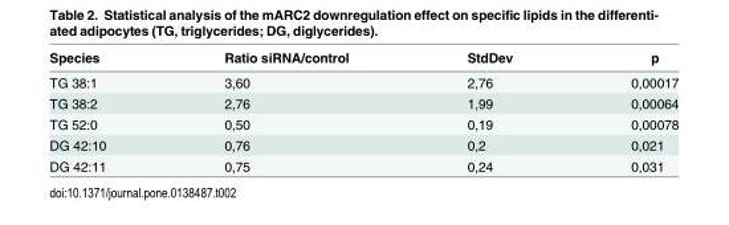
<table><thead><tr><td>Species</td><td>Ratio siRNA/control</td><td>StdDev</td><td>p</td></tr></thead><tbody><tr><td>TG 38:1</td><td>3,60</td><td>2,76</td><td>0,00017</td></tr><tr><td>TG 38:2</td><td>2,76</td><td>1,99</td><td>0,00064</td></tr><tr><td>TG 52:0</td><td>0,50</td><td>0,19</td><td>0,00078</td></tr><tr><td>DG 42:10</td><td>0,76</td><td>0,2</td><td>0,021</td></tr><tr><td>DG 42:11</td><td>0,75</td><td>0,24</td><td>0,031</td></tr></tbody></table>